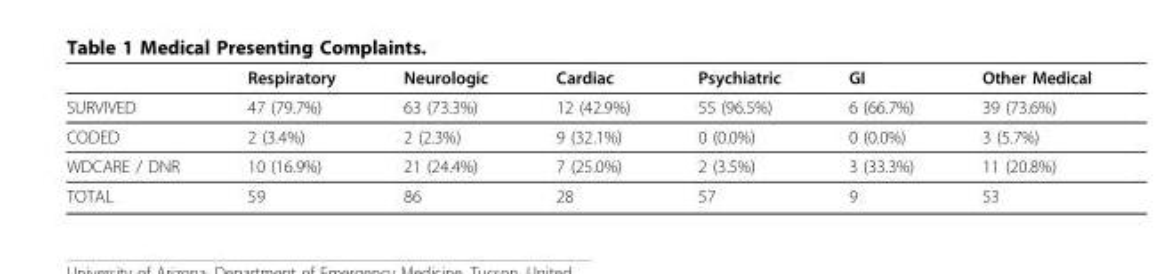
<table><thead><tr><td></td><td>Respiratory</td><td>Neurologic</td><td>Cardiac</td><td>Psychiatric</td><td>GI</td><td>Other Medical</td></tr></thead><tbody><tr><td>SURVIVED</td><td>47 (79.7%)</td><td>63 (73.3%)</td><td>12 (42.9%)</td><td>55 (96.5%)</td><td>6 (66.7%)</td><td>39 (73.6%)</td></tr><tr><td>CODED</td><td>2 (3.4%)</td><td>2 (2.3%)</td><td>9 (32.1%)</td><td>0 (0.0%)</td><td>0 (0.0%)</td><td>3 (5.7%)</td></tr><tr><td>WDCARE / DNR</td><td>10 (16.9%)</td><td>21 (24.4%)</td><td>7 (25.0%)</td><td>2 (3.5%)</td><td>3 (33.3%)</td><td>11 (20.8%)</td></tr><tr><td>TOTAL</td><td>59</td><td>86</td><td>28</td><td>57</td><td>9</td><td>53</td></tr></tbody></table>